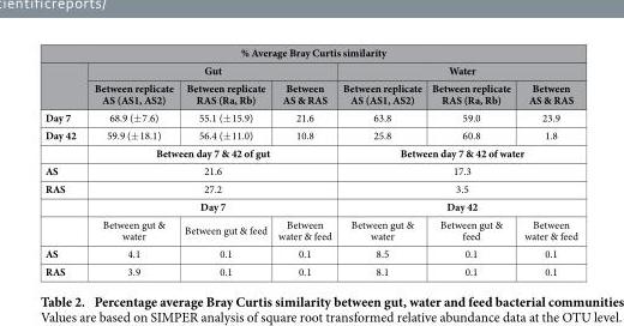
<table><thead><tr><td colspan="7">% Average Bray Curtis similarity</td></tr><tr><td rowspan="2"></td><td colspan="3">Gut</td><td colspan="3">Water</td></tr><tr><td>Between replicate AS (AS1, AS2)</td><td>Between replicate RAS (Ra, Rb)</td><td>Between AS &amp; RAS</td><td>Between replicate AS (AS1, AS2)</td><td>Between replicate RAS (Ra, Rb)</td><td>Between AS &amp; RAS</td></tr></thead><tbody><tr><td>Day 7</td><td>68.9 (± 7.6)</td><td>55.1 (± 15.9)</td><td>21.6</td><td>63.8</td><td>59.0</td><td>23.9</td></tr><tr><td rowspan="2">Day 42</td><td>59.9 (± 18.1)</td><td>56.4 (± 11.0)</td><td>10.8</td><td>25.8</td><td>60.8</td><td>1.8</td></tr><tr><td colspan="3">Between day 7 &amp; 42 of gut</td><td colspan="3">Between day 7 &amp; 42 of water</td></tr><tr><td>AS</td><td colspan="3">21.6</td><td colspan="3">17.3</td></tr><tr><td rowspan="3">RAS</td><td colspan="3">27.2</td><td colspan="3">3.5</td></tr><tr><td colspan="3">Day 7</td><td colspan="3">Day 42</td></tr><tr><td>Between gut &amp; water</td><td>Between gut &amp; feed</td><td>Between water &amp; feed</td><td>Between gut &amp; water</td><td>Between gut &amp; feed</td><td>Between water &amp; feed</td></tr><tr><td>AS</td><td>4.1</td><td>0.1</td><td>0.1</td><td>8.5</td><td>0.1</td><td>0.1</td></tr><tr><td>RAS</td><td>3.9</td><td>0.1</td><td>0.1</td><td>8.1</td><td>0.1</td><td>0.1</td></tr></tbody></table>